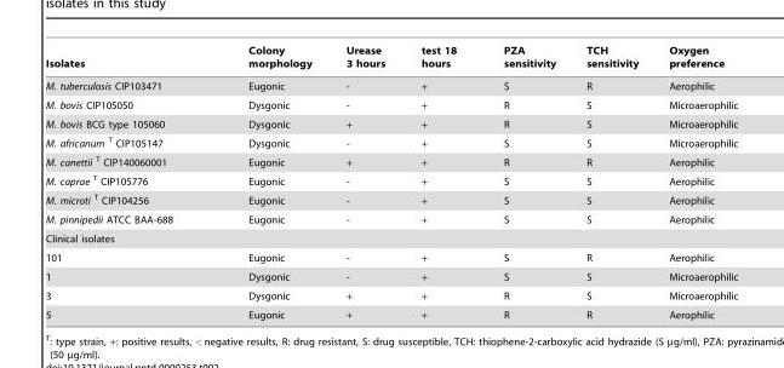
<table><thead><tr><td>Isolates</td><td>Colony morphology</td><td>Urease 3 hours</td><td>test 18 hours</td><td>PZA sensitivity</td><td>TCH sensitivity</td><td>Oxygen preference</td></tr></thead><tbody><tr><td>M. tuberculosis CIP103471</td><td>Eugonic</td><td>-</td><td>+</td><td>S</td><td>R</td><td>Aerophilic</td></tr><tr><td>M. bovis CIP105050</td><td>Dysgonic</td><td>-</td><td>+</td><td>R</td><td>S</td><td>Microaerophilic</td></tr><tr><td>M. bovis BCG type 105060</td><td>Dysgonic</td><td>+</td><td>+</td><td>R</td><td>S</td><td>Microaerophilic</td></tr><tr><td>M. africanum T CIP105147</td><td>Dysgonic</td><td>-</td><td>+</td><td>S</td><td>S</td><td>Microaerophilic</td></tr><tr><td>M. canettii T CIP140060001</td><td>Eugonic</td><td>+</td><td>+</td><td>R</td><td>R</td><td>Aerophilic</td></tr><tr><td>M. caprae T CIP105776</td><td>Eugonic</td><td>-</td><td>+</td><td>S</td><td>S</td><td>Aerophilic</td></tr><tr><td>M. microti T CIP104256</td><td>Eugonic</td><td>-</td><td>+</td><td>S</td><td>S</td><td>Aerophilic</td></tr><tr><td>M. pinnipedii ATCC BAA-688</td><td>Eugonic</td><td>-</td><td>+</td><td>S</td><td>S</td><td>Aerophilic</td></tr><tr><td colspan="7">Clinical isolates</td></tr><tr><td>101</td><td>Eugonic</td><td>-</td><td>+</td><td>S</td><td>R</td><td>Aerophilic</td></tr><tr><td>1</td><td>Dysgonic</td><td>-</td><td>+</td><td>S</td><td>S</td><td>Microaerophilic</td></tr><tr><td>3</td><td>Dysgonic</td><td>+</td><td>+</td><td>R</td><td>S</td><td>Microaerophilic</td></tr><tr><td>5</td><td>Eugonic</td><td>+</td><td>+</td><td>R</td><td>R</td><td>Aerophilic</td></tr></tbody></table>